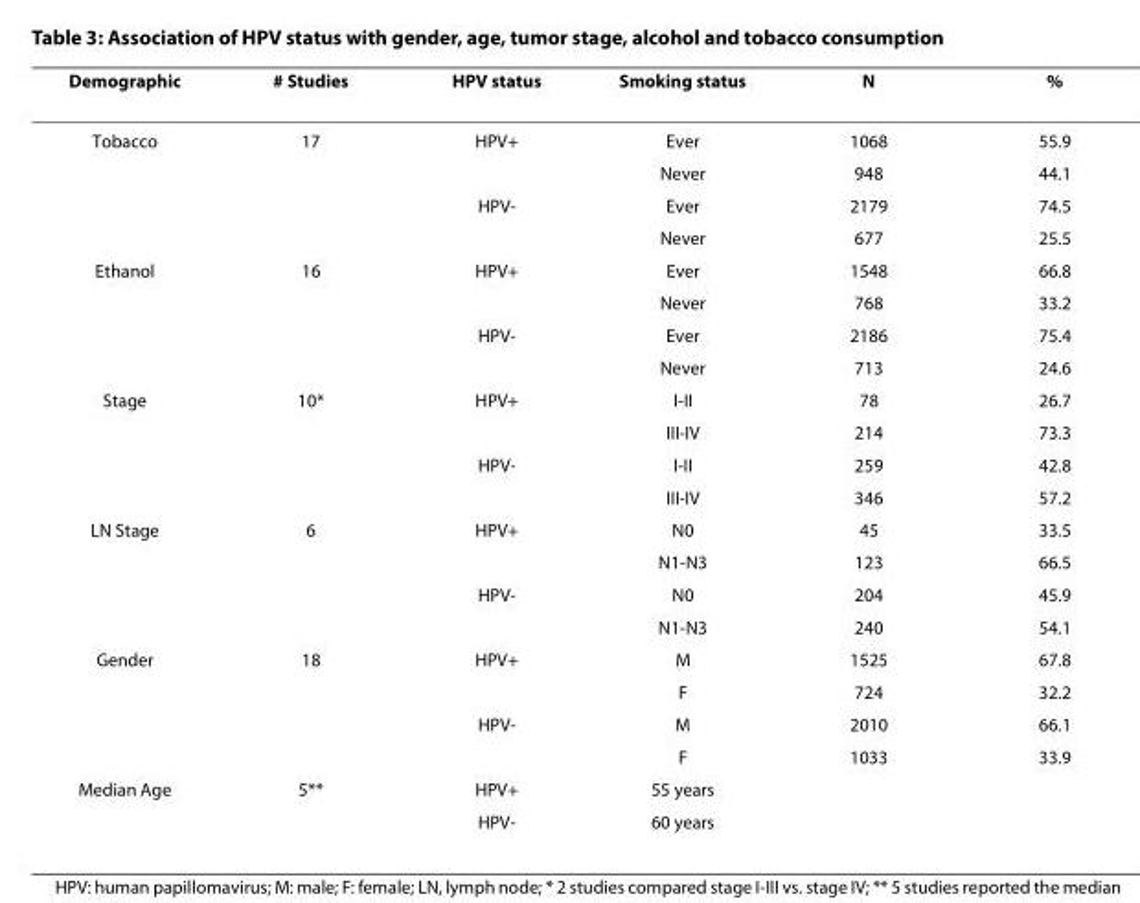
<table><thead><tr><td>Demographic</td><td># Studies</td><td>HPV status</td><td>Smoking status</td><td>N</td><td>%</td></tr></thead><tbody><tr><td rowspan="4">Tobacco</td><td>17</td><td>HPV+</td><td>Ever</td><td>1068</td><td>55.9</td></tr><tr><td></td><td></td><td>Never</td><td>948</td><td>44.1</td></tr><tr><td></td><td>HPV-</td><td>Ever</td><td>2179</td><td>74.5</td></tr><tr><td></td><td></td><td>Never</td><td>677</td><td>25.5</td></tr><tr><td rowspan="4">Ethanol</td><td>16</td><td>HPV+</td><td>Ever</td><td>1548</td><td>66.8</td></tr><tr><td></td><td></td><td>Never</td><td>768</td><td>33.2</td></tr><tr><td></td><td>HPV-</td><td>Ever</td><td>2186</td><td>75.4</td></tr><tr><td></td><td></td><td>Never</td><td>713</td><td>24.6</td></tr><tr><td rowspan="4">Stage</td><td>10*</td><td>HPV+</td><td>I-II</td><td>78</td><td>26.7</td></tr><tr><td></td><td></td><td>III-IV</td><td>214</td><td>73.3</td></tr><tr><td></td><td>HPV-</td><td>I-II</td><td>259</td><td>42.8</td></tr><tr><td></td><td></td><td>III-IV</td><td>346</td><td>57.2</td></tr><tr><td rowspan="4">LN Stage</td><td>6</td><td>HPV+</td><td>N0</td><td>45</td><td>33.5</td></tr><tr><td></td><td></td><td>N1-N3</td><td>123</td><td>66.5</td></tr><tr><td></td><td>HPV-</td><td>N0</td><td>204</td><td>45.9</td></tr><tr><td></td><td></td><td>N1-N3</td><td>240</td><td>54.1</td></tr><tr><td rowspan="4">Gender</td><td>18</td><td>HPV+</td><td>M</td><td>1525</td><td>67.8</td></tr><tr><td></td><td></td><td>F</td><td>724</td><td>32.2</td></tr><tr><td></td><td>HPV-</td><td>M</td><td>2010</td><td>66.1</td></tr><tr><td></td><td></td><td>F</td><td>1033</td><td>33.9</td></tr><tr><td rowspan="2">Median Age</td><td>5**</td><td>HPV+</td><td>55 years</td><td></td><td></td></tr><tr><td></td><td>HPV-</td><td>60 years</td><td></td><td></td></tr></tbody></table>